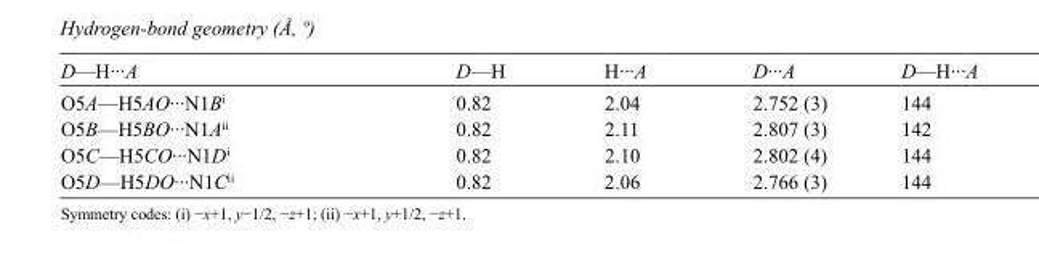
<table><tbody><tr><td>D—H···A</td><td>D—H</td><td>H···A</td><td>D···A</td><td>D—H···A</td></tr><tr><td>O5A—H5AO···N1B<sup>i</sup></td><td>0.82</td><td>2.04</td><td>2.752 (3)</td><td>144</td></tr><tr><td>O5B—H5BO···N1A<sup>ii</sup></td><td>0.82</td><td>2.11</td><td>2.807 (3)</td><td>142</td></tr><tr><td>O5C—H5CO···N1D<sup>i</sup></td><td>0.82</td><td>2.10</td><td>2.802 (4)</td><td>144</td></tr><tr><td>O5D—H5DO···N1C<sup>ii</sup></td><td>0.82</td><td>2.06</td><td>2.766 (3)</td><td>144</td></tr></tbody></table>